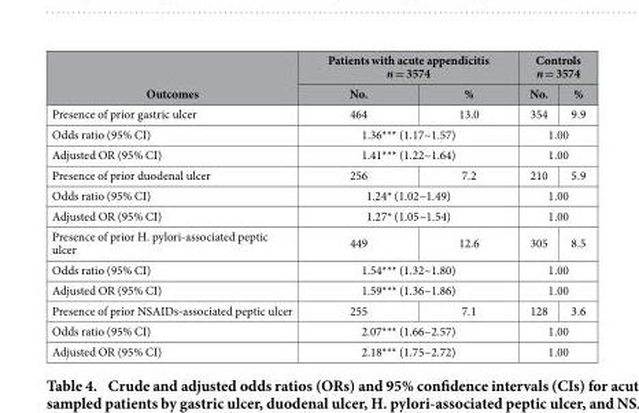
<table><thead><tr><td rowspan="2">Outcomes</td><td colspan="2">Patients with acute appendicitis n = 3574</td><td colspan="2">Controls n = 3574</td></tr><tr><td>No.</td><td>%</td><td>No.</td><td>%</td></tr></thead><tbody><tr><td>Presence of prior gastric ulcer</td><td>464</td><td>13.0</td><td>354</td><td>9.9</td></tr><tr><td>Odds ratio (95% CI)</td><td colspan="2">1.36*** (1.17~1.57)</td><td colspan="2">1.00</td></tr><tr><td>Adjusted OR (95% CI)</td><td colspan="2">1.41*** (1.22~1.64)</td><td colspan="2">1.00</td></tr><tr><td>Presence of prior duodenal ulcer</td><td>256</td><td>7.2</td><td>210</td><td>5.9</td></tr><tr><td>Odds ratio (95% CI)</td><td colspan="2">1.24* (1.02~1.49)</td><td colspan="2">1.00</td></tr><tr><td>Adjusted OR (95% CI)</td><td colspan="2">1.27* (1.05~1.54)</td><td colspan="2">1.00</td></tr><tr><td>Presence of prior H. pylori-associated peptic ulcer</td><td>449</td><td>12.6</td><td>305</td><td>8.5</td></tr><tr><td>Odds ratio (95% CI)</td><td colspan="2">1.54*** (1.32~1.80)</td><td colspan="2">1.00</td></tr><tr><td>Adjusted OR (95% CI)</td><td colspan="2">1.59*** (1.36~1.86)</td><td colspan="2">1.00</td></tr><tr><td>Presence of prior NSAIDs-associated peptic ulcer</td><td>255</td><td>7.1</td><td>128</td><td>3.6</td></tr><tr><td>Odds ratio (95% CI)</td><td colspan="2">2.07*** (1.66~2.57)</td><td colspan="2">1.00</td></tr><tr><td>Adjusted OR (95% CI)</td><td colspan="2">2.18*** (1.75~2.72)</td><td colspan="2">1.00</td></tr></tbody></table>